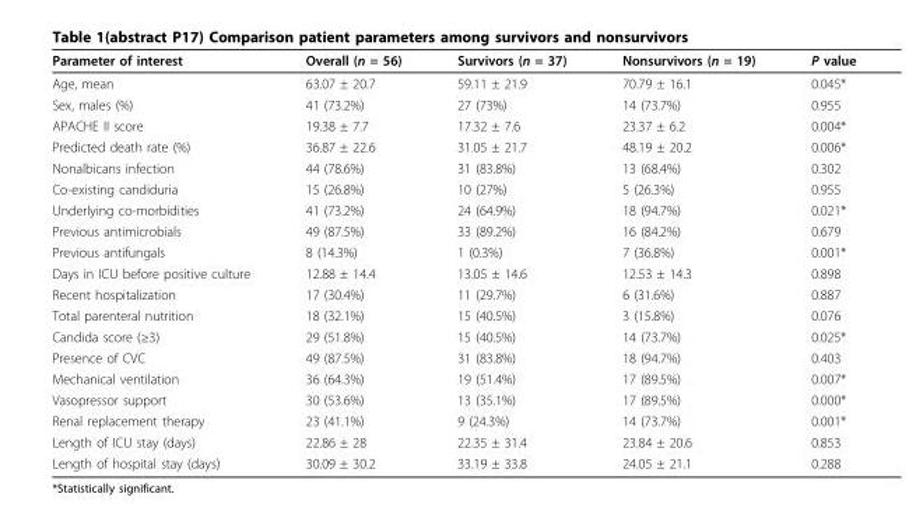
<table><thead><tr><td>Parameter of interest</td><td>Overall (n = 56)</td><td>Survivors (n = 37)</td><td>Nonsurvivors (n = 19)</td><td>P value</td></tr></thead><tbody><tr><td>Age, mean</td><td>63.07 ± 20.7</td><td>59.11 ± 21.9</td><td>70.79 ± 16.1</td><td>0.045*</td></tr><tr><td>Sex, males (%)</td><td>41 (73.2%)</td><td>27 (73%)</td><td>14 (73.7%)</td><td>0.955</td></tr><tr><td>APACHE II score</td><td>19.38 ± 7.7</td><td>17.32 ± 7.6</td><td>23.37 ± 6.2</td><td>0.004*</td></tr><tr><td>Predicted death rate (%)</td><td>36.87 ± 22.6</td><td>31.05 ± 21.7</td><td>48.19 ± 20.2</td><td>0.006*</td></tr><tr><td>Nonalbicans infection</td><td>44 (78.6%)</td><td>31 (83.8%)</td><td>13 (68.4%)</td><td>0.302</td></tr><tr><td>Co-existing candiduria</td><td>15 (26.8%)</td><td>10 (27%)</td><td>5 (26.3%)</td><td>0.955</td></tr><tr><td>Underlying co-morbidities</td><td>41 (73.2%)</td><td>24 (64.9%)</td><td>18 (94.7%)</td><td>0.021*</td></tr><tr><td>Previous antimicrobials</td><td>49 (87.5%)</td><td>33 (89.2%)</td><td>16 (84.2%)</td><td>0.679</td></tr><tr><td>Previous antifungals</td><td>8 (14.3%)</td><td>1 (0.3%)</td><td>7 (36.8%)</td><td>0.001*</td></tr><tr><td>Days in ICU before positive culture</td><td>12.88 ± 14.4</td><td>13.05 ± 14.6</td><td>12.53 ± 14.3</td><td>0.898</td></tr><tr><td>Recent hospitalization</td><td>17 (30.4%)</td><td>11 (29.7%)</td><td>6 (31.6%)</td><td>0.887</td></tr><tr><td>Total parenteral nutrition</td><td>18 (32.1%)</td><td>15 (40.5%)</td><td>3 (15.8%)</td><td>0.076</td></tr><tr><td>Candida score (≥3)</td><td>29 (51.8%)</td><td>15 (40.5%)</td><td>14 (73.7%)</td><td>0.025*</td></tr><tr><td>Presence of CVC</td><td>49 (87.5%)</td><td>31 (83.8%)</td><td>18 (94.7%)</td><td>0.403</td></tr><tr><td>Mechanical ventilation</td><td>36 (64.3%)</td><td>19 (51.4%)</td><td>17 (89.5%)</td><td>0.007*</td></tr><tr><td>Vasopressor support</td><td>30 (53.6%)</td><td>13 (35.1%)</td><td>17 (89.5%)</td><td>0.000*</td></tr><tr><td>Renal replacement therapy</td><td>23 (41.1%)</td><td>9 (24.3%)</td><td>14 (73.7%)</td><td>0.001*</td></tr><tr><td>Length of ICU stay (days)</td><td>22.86 ± 28</td><td>22.35 ± 31.4</td><td>23.84 ± 20.6</td><td>0.853</td></tr><tr><td>Length of hospital stay (days)</td><td>30.09 ± 30.2</td><td>33.19 ± 33.8</td><td>24.05 ± 21.1</td><td>0.288</td></tr></tbody></table>